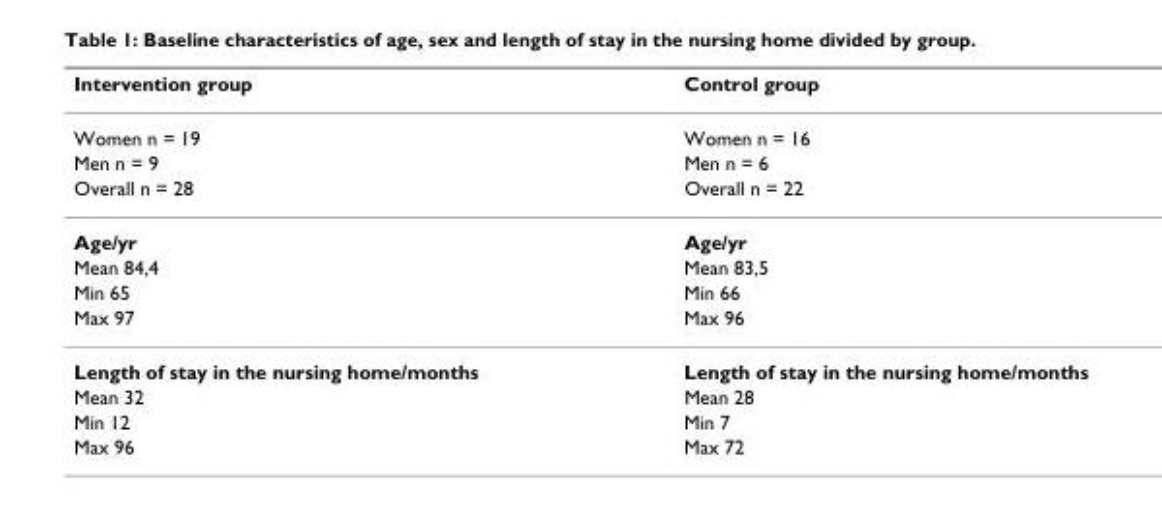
<table><thead><tr><td>Intervention group</td><td>Control group</td></tr></thead><tbody><tr><td>Women n = 19</td><td>Women n = 16</td></tr><tr><td>Men n = 9</td><td>Men n = 6</td></tr><tr><td>Overall n = 28</td><td>Overall n = 22</td></tr><tr><td>Age/yr</td><td>Age/yr</td></tr><tr><td>Mean 84,4</td><td>Mean 83,5</td></tr><tr><td>Min 65</td><td>Min 66</td></tr><tr><td>Max 97</td><td>Max 96</td></tr><tr><td>Length of stay in the nursing home/months</td><td>Length of stay in the nursing home/months</td></tr><tr><td>Mean 32</td><td>Mean 28</td></tr><tr><td>Min 12</td><td>Min 7</td></tr><tr><td>Max 96</td><td>Max 72</td></tr></tbody></table>